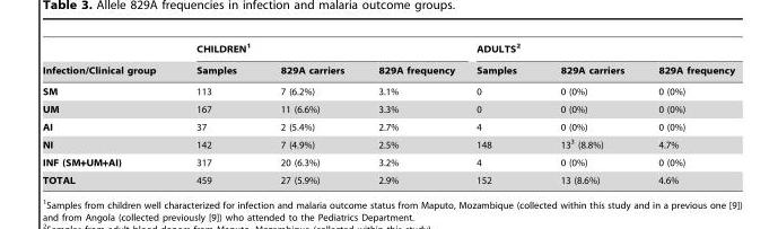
<table><thead><tr><td rowspan="2">Infection/Clinical group</td><td colspan="3">CHILDREN<sup>1</sup></td><td colspan="3">ADULTS<sup>2</sup></td></tr><tr><td>Samples</td><td>829A carriers</td><td>829A frequency</td><td>Samples</td><td>829A carriers</td><td>829A frequency</td></tr></thead><tbody><tr><td>SM</td><td>113</td><td>7 (6.2%)</td><td>3.1%</td><td>0</td><td>0 (0%)</td><td>0 (0%)</td></tr><tr><td>UM</td><td>167</td><td>11 (6.6%)</td><td>3.3%</td><td>0</td><td>0 (0%)</td><td>0 (0%)</td></tr><tr><td>AI</td><td>37</td><td>2 (5.4%)</td><td>2.7%</td><td>4</td><td>0 (0%)</td><td>0 (0%)</td></tr><tr><td>NI</td><td>142</td><td>7 (4.9%)</td><td>2.5%</td><td>148</td><td>13<sup>3</sup> (8.8%)</td><td>4.7%</td></tr><tr><td>INF (SM+UM+AI)</td><td>317</td><td>20 (6.3%)</td><td>3.2%</td><td>4</td><td>0 (0%)</td><td>0 (0%)</td></tr><tr><td>TOTAL</td><td>459</td><td>27 (5.9%)</td><td>2.9%</td><td>152</td><td>13 (8.6%)</td><td>4.6%</td></tr></tbody></table>